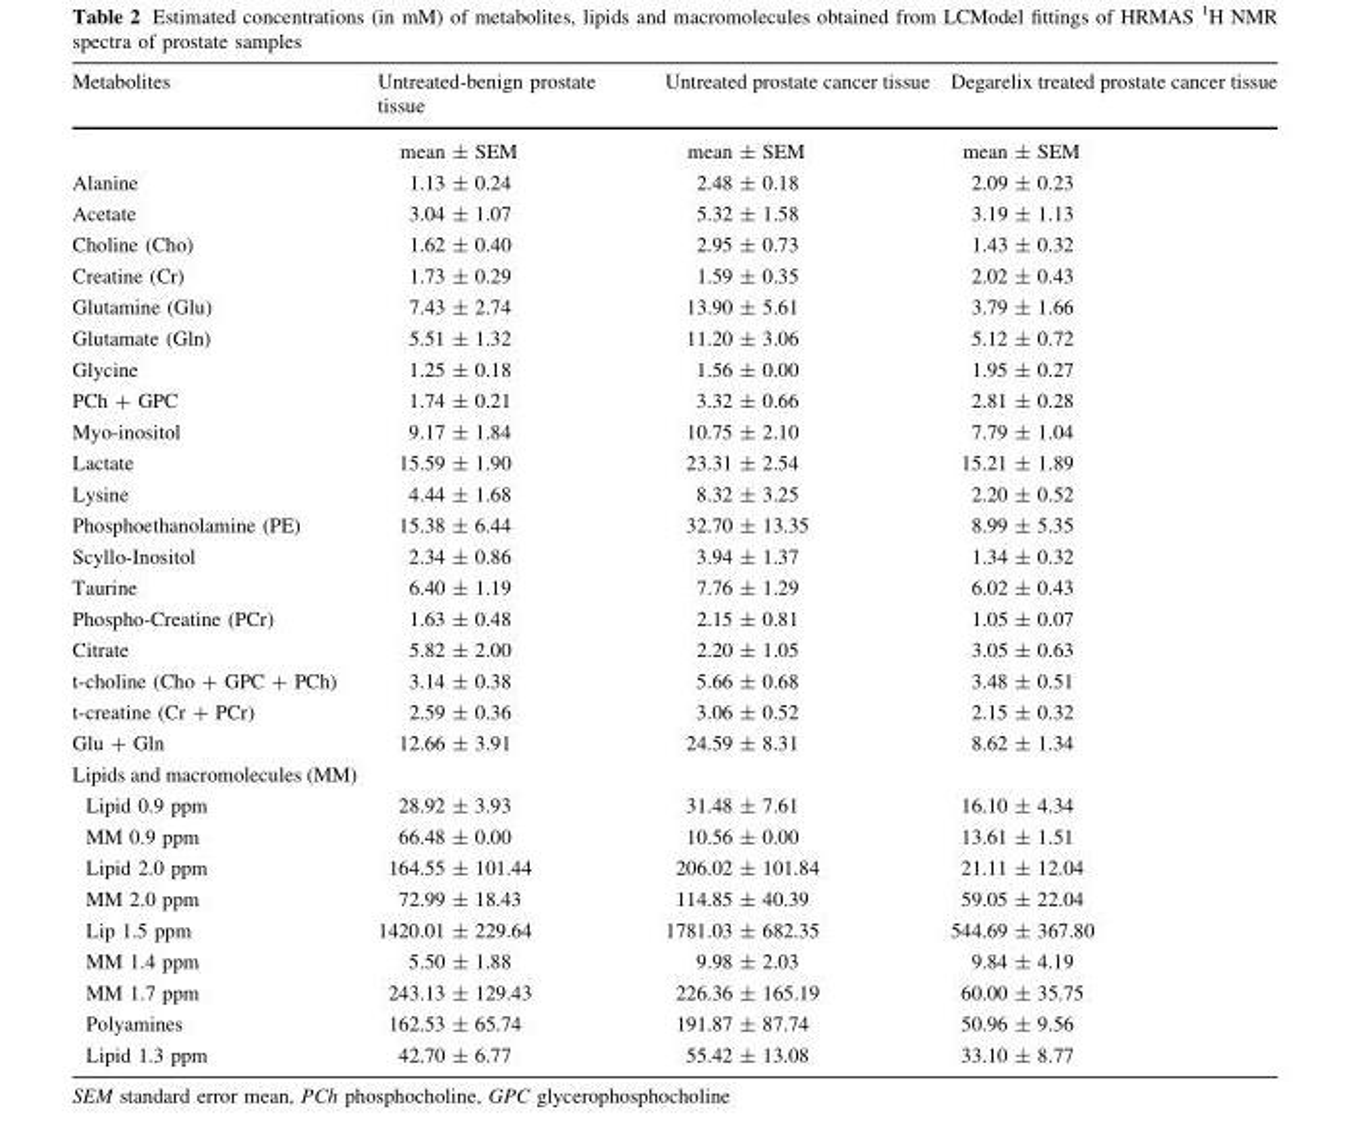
<table><thead><tr><td>Metabolites</td><td>Untreated-benign prostate tissue</td><td>Untreated prostate cancer tissue</td><td>Degarelix treated prostate cancer tissue</td></tr></thead><tbody><tr><td></td><td>mean ± SEM</td><td>mean ± SEM</td><td>mean ± SEM</td></tr><tr><td>Alanine</td><td>1.13 ± 0.24</td><td>2.48 ± 0.18</td><td>2.09 ± 0.23</td></tr><tr><td>Acetate</td><td>3.04 ± 1.07</td><td>5.32 ± 1.58</td><td>3.19 ± 1.13</td></tr><tr><td>Choline (Cho)</td><td>1.62 ± 0.40</td><td>2.95 ± 0.73</td><td>1.43 ± 0.32</td></tr><tr><td>Creatine (Cr)</td><td>1.73 ± 0.29</td><td>1.59 ± 0.35</td><td>2.02 ± 0.43</td></tr><tr><td>Glutamine (Glu)</td><td>7.43 ± 2.74</td><td>13.90 ± 5.61</td><td>3.79 ± 1.66</td></tr><tr><td>Glutamate (Gln)</td><td>5.51 ± 1.32</td><td>11.20 ± 3.06</td><td>5.12 ± 0.72</td></tr><tr><td>Glycine</td><td>1.25 ± 0.18</td><td>1.56 ± 0.00</td><td>1.95 ± 0.27</td></tr><tr><td>PCh + GPC</td><td>1.74 ± 0.21</td><td>3.32 ± 0.66</td><td>2.81 ± 0.28</td></tr><tr><td>Myo-inositol</td><td>9.17 ± 1.84</td><td>10.75 ± 2.10</td><td>7.79 ± 1.04</td></tr><tr><td>Lactate</td><td>15.59 ± 1.90</td><td>23.31 ± 2.54</td><td>15.21 ± 1.89</td></tr><tr><td>Lysine</td><td>4.44 ± 1.68</td><td>8.32 ± 3.25</td><td>2.20 ± 0.52</td></tr><tr><td>Phosphoethanolamine (PE)</td><td>15.38 ± 6.44</td><td>32.70 ± 13.35</td><td>8.99 ± 5.35</td></tr><tr><td>Scyllo-Inositol</td><td>2.34 ± 0.86</td><td>3.94 ± 1.37</td><td>1.34 ± 0.32</td></tr><tr><td>Taurine</td><td>6.40 ± 1.19</td><td>7.76 ± 1.29</td><td>6.02 ± 0.43</td></tr><tr><td>Phospho-Creatine (PCr)</td><td>1.63 ± 0.48</td><td>2.15 ± 0.81</td><td>1.05 ± 0.07</td></tr><tr><td>Citrate</td><td>5.82 ± 2.00</td><td>2.20 ± 1.05</td><td>3.05 ± 0.63</td></tr><tr><td>t-choline (Cho + GPC + PCh)</td><td>3.14 ± 0.38</td><td>5.66 ± 0.68</td><td>3.48 ± 0.51</td></tr><tr><td>t-creatine (Cr + PCr)</td><td>2.59 ± 0.36</td><td>3.06 ± 0.52</td><td>2.15 ± 0.32</td></tr><tr><td>Glu + Gln</td><td>12.66 ± 3.91</td><td>24.59 ± 8.31</td><td>8.62 ± 1.34</td></tr><tr><td colspan="4">Lipids and macromolecules (MM)</td></tr><tr><td>Lipid 0.9 ppm</td><td>28.92 ± 3.93</td><td>31.48 ± 7.61</td><td>16.10 ± 4.34</td></tr><tr><td>MM 0.9 ppm</td><td>66.48 ± 0.00</td><td>10.56 ± 0.00</td><td>13.61 ± 1.51</td></tr><tr><td>Lipid 2.0 ppm</td><td>164.55 ± 101.44</td><td>206.02 ± 101.84</td><td>21.11 ± 12.04</td></tr><tr><td>MM 2.0 ppm</td><td>72.99 ± 18.43</td><td>114.85 ± 40.39</td><td>59.05 ± 22.04</td></tr><tr><td>Lip 1.5 ppm</td><td>1420.01 ± 229.64</td><td>1781.03 ± 682.35</td><td>544.69 ± 367.80</td></tr><tr><td>MM 1.4 ppm</td><td>5.50 ± 1.88</td><td>9.98 ± 2.03</td><td>9.84 ± 4.19</td></tr><tr><td>MM 1.7 ppm</td><td>243.13 ± 129.43</td><td>226.36 ± 165.19</td><td>60.00 ± 35.75</td></tr><tr><td>Polyamines</td><td>162.53 ± 65.74</td><td>191.87 ± 87.74</td><td>50.96 ± 9.56</td></tr><tr><td>Lipid 1.3 ppm</td><td>42.70 ± 6.77</td><td>55.42 ± 13.08</td><td>33.10 ± 8.77</td></tr></tbody></table>